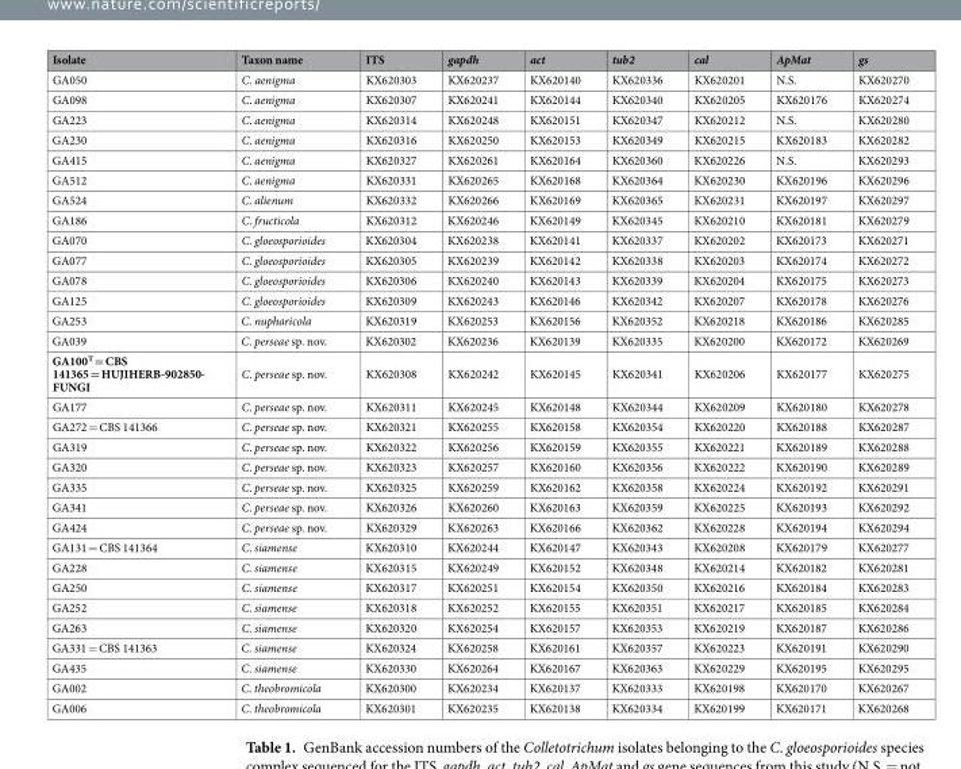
<table><thead><tr><td>Isolate</td><td>Taxon name</td><td>ITS</td><td>gapdh</td><td>act</td><td>tub2</td><td>cal</td><td>ApMat</td><td>gs</td></tr></thead><tbody><tr><td>GA050</td><td>C. aenigma</td><td>KX620303</td><td>KX620237</td><td>KX620140</td><td>KX620336</td><td>KX620201</td><td>N.S.</td><td>KX620270</td></tr><tr><td>GA098</td><td>C. aenigma</td><td>KX620307</td><td>KX620241</td><td>KX620144</td><td>KX620340</td><td>KX620205</td><td>KX620176</td><td>KX620274</td></tr><tr><td>GA223</td><td>C. aenigma</td><td>KX620314</td><td>KX620248</td><td>KX620151</td><td>KX620347</td><td>KX620212</td><td>N.S.</td><td>KX620280</td></tr><tr><td>GA230</td><td>C. aenigma</td><td>KX620316</td><td>KX620250</td><td>KX620153</td><td>KX620349</td><td>KX620215</td><td>KX620183</td><td>KX620282</td></tr><tr><td>GA415</td><td>C. aenigma</td><td>KX620327</td><td>KX620261</td><td>KX620164</td><td>KX620360</td><td>KX620226</td><td>N.S.</td><td>KX620293</td></tr><tr><td>GA512</td><td>C. aenigma</td><td>KX620331</td><td>KX620265</td><td>KX620168</td><td>KX620364</td><td>KX620230</td><td>KX620196</td><td>KX620296</td></tr><tr><td>GA524</td><td>C. alienum</td><td>KX620332</td><td>KX620266</td><td>KX620169</td><td>KX620365</td><td>KX620231</td><td>KX620197</td><td>KX620297</td></tr><tr><td>GA186</td><td>C. fructicola</td><td>KX620312</td><td>KX620246</td><td>KX620149</td><td>KX620345</td><td>KX620210</td><td>KX620181</td><td>KX620279</td></tr><tr><td>GA070</td><td>C. gloeosporioides</td><td>KX620304</td><td>KX620238</td><td>KX620141</td><td>KX620337</td><td>KX620202</td><td>KX620173</td><td>KX620271</td></tr><tr><td>GA077</td><td>C. gloeosporioides</td><td>KX620305</td><td>KX620239</td><td>KX620142</td><td>KX620338</td><td>KX620203</td><td>KX620174</td><td>KX620272</td></tr><tr><td>GA078</td><td>C. gloeosporioides</td><td>KX620306</td><td>KX620240</td><td>KX620143</td><td>KX620339</td><td>KX620204</td><td>KX620175</td><td>KX620273</td></tr><tr><td>GA125</td><td>C. gloeosporioides</td><td>KX620309</td><td>KX620243</td><td>KX620146</td><td>KX620342</td><td>KX620207</td><td>KX620178</td><td>KX620276</td></tr><tr><td>GA253</td><td>C. nupharicola</td><td>KX620319</td><td>KX620253</td><td>KX620156</td><td>KX620352</td><td>KX620218</td><td>KX620186</td><td>KX620285</td></tr><tr><td>GA039</td><td>C. perseae sp. nov.</td><td>KX620302</td><td>KX620236</td><td>KX620139</td><td>KX620335</td><td>KX620200</td><td>KX620172</td><td>KX620269</td></tr><tr><td>GA100<sup>T</sup> = CBS 141365 = HUJIHERB-902850- FUNGI</td><td>C. perseae sp. nov.</td><td>KX620308</td><td>KX620242</td><td>KX620145</td><td>KX620341</td><td>KX620206</td><td>KX620177</td><td>KX620275</td></tr><tr><td>GA177</td><td>C. perseae sp. nov.</td><td>KX620311</td><td>KX620245</td><td>KX620148</td><td>KX620344</td><td>KX620209</td><td>KX620180</td><td>KX620278</td></tr><tr><td>GA272 = CBS 141366</td><td>C. perseae sp. nov.</td><td>KX620321</td><td>KX620255</td><td>KX620158</td><td>KX620354</td><td>KX620220</td><td>KX620188</td><td>KX620287</td></tr><tr><td>GA319</td><td>C. perseae sp. nov.</td><td>KX620322</td><td>KX620256</td><td>KX620159</td><td>KX620355</td><td>KX620221</td><td>KX620189</td><td>KX620288</td></tr><tr><td>GA320</td><td>C. perseae sp. nov.</td><td>KX620323</td><td>KX620257</td><td>KX620160</td><td>KX620356</td><td>KX620222</td><td>KX620190</td><td>KX620289</td></tr><tr><td>GA335</td><td>C. perseae sp. nov.</td><td>KX620325</td><td>KX620259</td><td>KX620162</td><td>KX620358</td><td>KX620224</td><td>KX620192</td><td>KX620291</td></tr><tr><td>GA341</td><td>C. perseae sp. nov.</td><td>KX620326</td><td>KX620260</td><td>KX620163</td><td>KX620359</td><td>KX620225</td><td>KX620193</td><td>KX620292</td></tr><tr><td>GA424</td><td>C. perseae sp. nov.</td><td>KX620329</td><td>KX620263</td><td>KX620166</td><td>KX620362</td><td>KX620228</td><td>KX620194</td><td>KX620294</td></tr><tr><td>GA131 = CBS 141364</td><td>C. siamense</td><td>KX620310</td><td>KX620244</td><td>KX620147</td><td>KX620343</td><td>KX620208</td><td>KX620179</td><td>KX620277</td></tr><tr><td>GA228</td><td>C. siamense</td><td>KX620315</td><td>KX620249</td><td>KX620152</td><td>KX620348</td><td>KX620214</td><td>KX620182</td><td>KX620281</td></tr><tr><td>GA250</td><td>C. siamense</td><td>KX620317</td><td>KX620251</td><td>KX620154</td><td>KX620350</td><td>KX620216</td><td>KX620184</td><td>KX620283</td></tr><tr><td>GA252</td><td>C. siamense</td><td>KX620318</td><td>KX620252</td><td>KX620155</td><td>KX620351</td><td>KX620217</td><td>KX620185</td><td>KX620284</td></tr><tr><td>GA263</td><td>C. siamense</td><td>KX620320</td><td>KX620254</td><td>KX620157</td><td>KX620353</td><td>KX620219</td><td>KX620187</td><td>KX620286</td></tr><tr><td>GA331 = CBS 141363</td><td>C. siamense</td><td>KX620324</td><td>KX620258</td><td>KX620161</td><td>KX620357</td><td>KX620223</td><td>KX620191</td><td>KX620290</td></tr><tr><td>GA435</td><td>C. siamense</td><td>KX620330</td><td>KX620264</td><td>KX620167</td><td>KX620363</td><td>KX620229</td><td>KX620195</td><td>KX620295</td></tr><tr><td>GA002</td><td>C. theobromicola</td><td>KX620300</td><td>KX620234</td><td>KX620137</td><td>KX620333</td><td>KX620198</td><td>KX620170</td><td>KX620267</td></tr><tr><td>GA006</td><td>C. theobromicola</td><td>KX620301</td><td>KX620235</td><td>KX620138</td><td>KX620334</td><td>KX620199</td><td>KX620171</td><td>KX620268</td></tr></tbody></table>